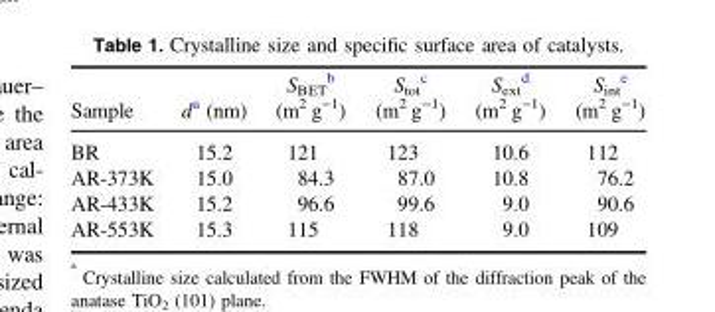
<table><thead><tr><td>Sample</td><td>d<sup>a</sup> (nm)</td><td>S<sub>BET</sub> <sup>b</sup> (m<sup>2</sup> g<sup>−1</sup>)</td><td>S<sub>tot</sub> <sup>c</sup> (m<sup>2</sup> g<sup>−1</sup>)</td><td>S<sub>ext</sub> <sup>d</sup> (m<sup>2</sup> g<sup>−1</sup>)</td><td>S<sub>int</sub> <sup>e</sup> (m<sup>2</sup> g<sup>−1</sup>)</td></tr></thead><tbody><tr><td>BR</td><td>15.2</td><td>121</td><td>123</td><td>10.6</td><td>112</td></tr><tr><td>AR-373K</td><td>15.0</td><td>84.3</td><td>87.0</td><td>10.8</td><td>76.2</td></tr><tr><td>AR-433K</td><td>15.2</td><td>96.6</td><td>99.6</td><td>9.0</td><td>90.6</td></tr><tr><td>AR-553K</td><td>15.3</td><td>115</td><td>118</td><td>9.0</td><td>109</td></tr></tbody></table>